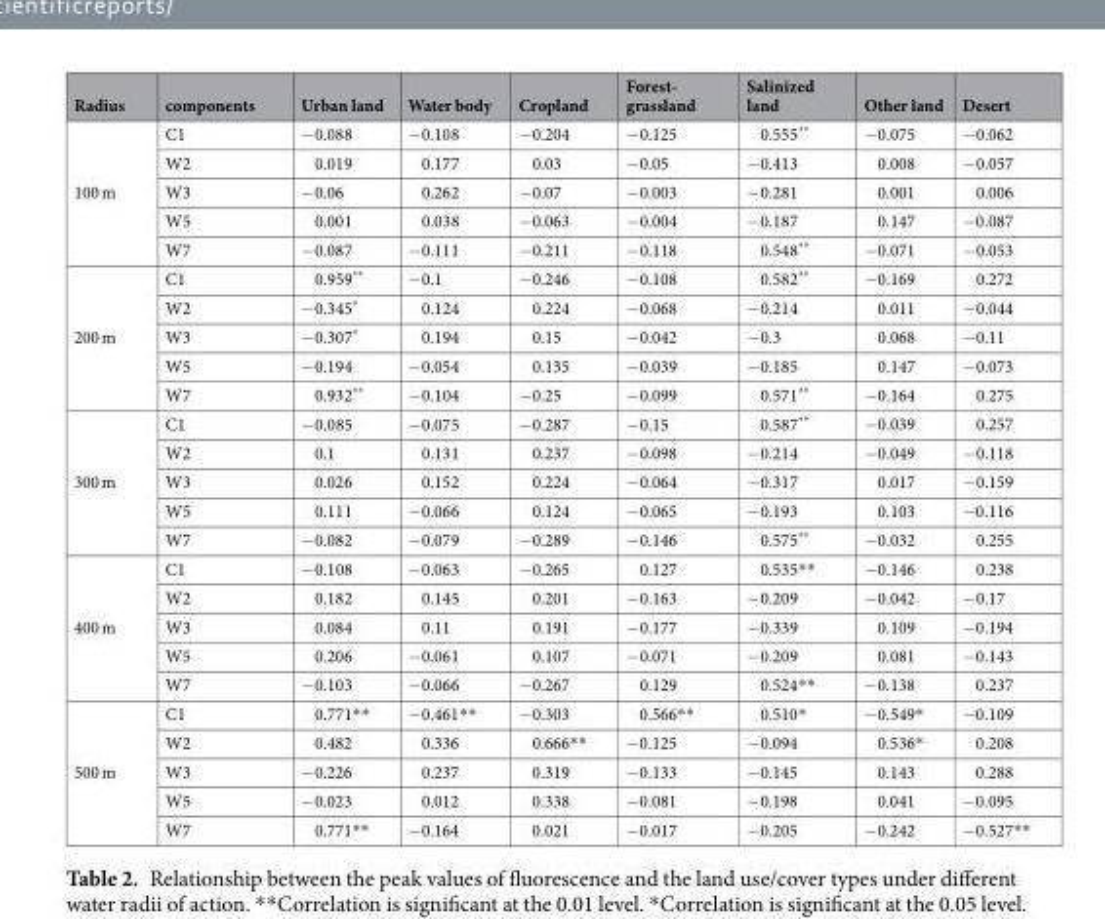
<table><thead><tr><td>Radius</td><td>components</td><td>Urban land</td><td>Water body</td><td>Cropland</td><td>Forest- grassland</td><td>Salinized land</td><td>Other land</td><td>Desert</td></tr></thead><tbody><tr><td rowspan="5">100 m</td><td>C1</td><td>−0.088</td><td>−0.108</td><td>−0.204</td><td>−0.125</td><td>0.555**</td><td>−0.075</td><td>−0.062</td></tr><tr><td>W2</td><td>0.019</td><td>0.177</td><td>0.03</td><td>−0.05</td><td>−0.413</td><td>0.008</td><td>−0.057</td></tr><tr><td>W3</td><td>−0.06</td><td>0.262</td><td>−0.07</td><td>−0.003</td><td>−0.281</td><td>0.001</td><td>0.006</td></tr><tr><td>W5</td><td>0.001</td><td>0.038</td><td>−0.063</td><td>−0.004</td><td>−0.187</td><td>0.147</td><td>−0.087</td></tr><tr><td>W7</td><td>−0.087</td><td>−0.111</td><td>−0.211</td><td>−0.118</td><td>0.548**</td><td>−0.071</td><td>−0.053</td></tr><tr><td rowspan="5">200 m</td><td>C1</td><td>0.959**</td><td>−0.1</td><td>−0.246</td><td>−0.108</td><td>0.582**</td><td>−0.169</td><td>0.272</td></tr><tr><td>W2</td><td>−0.345*</td><td>0.124</td><td>0.224</td><td>−0.068</td><td>−0.214</td><td>0.011</td><td>−0.044</td></tr><tr><td>W3</td><td>−0.307*</td><td>0.194</td><td>0.15</td><td>−0.042</td><td>−0.3</td><td>0.068</td><td>−0.11</td></tr><tr><td>W5</td><td>−0.194</td><td>−0.054</td><td>0.135</td><td>−0.039</td><td>−0.185</td><td>0.147</td><td>−0.073</td></tr><tr><td>W7</td><td>0.932**</td><td>−0.104</td><td>−0.25</td><td>−0.099</td><td>0.571**</td><td>−0.164</td><td>0.275</td></tr><tr><td rowspan="5">300 m</td><td>C1</td><td>−0.085</td><td>−0.075</td><td>−0.287</td><td>−0.15</td><td>0.587**</td><td>−0.039</td><td>0.257</td></tr><tr><td>W2</td><td>0.1</td><td>0.131</td><td>0.237</td><td>−0.098</td><td>−0.214</td><td>−0.049</td><td>−0.118</td></tr><tr><td>W3</td><td>0.026</td><td>0.152</td><td>0.224</td><td>−0.064</td><td>−0.317</td><td>0.017</td><td>−0.159</td></tr><tr><td>W5</td><td>0.111</td><td>−0.066</td><td>0.124</td><td>−0.065</td><td>−0.193</td><td>0.103</td><td>−0.116</td></tr><tr><td>W7</td><td>−0.082</td><td>−0.079</td><td>−0.289</td><td>−0.146</td><td>0.575**</td><td>−0.032</td><td>0.255</td></tr><tr><td rowspan="5">400 m</td><td>C1</td><td>−0.108</td><td>−0.063</td><td>−0.265</td><td>0.127</td><td>0.535**</td><td>−0.146</td><td>0.238</td></tr><tr><td>W2</td><td>0.182</td><td>0.145</td><td>0.201</td><td>−0.163</td><td>−0.209</td><td>−0.042</td><td>−0.17</td></tr><tr><td>W3</td><td>0.084</td><td>0.11</td><td>0.191</td><td>−0.177</td><td>−0.339</td><td>0.109</td><td>−0.194</td></tr><tr><td>W5</td><td>0.206</td><td>−0.061</td><td>0.107</td><td>−0.071</td><td>−0.209</td><td>0.081</td><td>−0.143</td></tr><tr><td>W7</td><td>−0.103</td><td>−0.066</td><td>−0.267</td><td>0.129</td><td>0.524**</td><td>−0.138</td><td>0.237</td></tr><tr><td rowspan="5">500 m</td><td>C1</td><td>0.771**</td><td>−0.461**</td><td>−0.303</td><td>0.566**</td><td>0.510*</td><td>−0.549*</td><td>−0.109</td></tr><tr><td>W2</td><td>0.482</td><td>0.336</td><td>0.666**</td><td>−0.125</td><td>−0.094</td><td>0.536*</td><td>0.208</td></tr><tr><td>W3</td><td>−0.226</td><td>0.237</td><td>0.319</td><td>−0.133</td><td>−0.145</td><td>0.143</td><td>0.288</td></tr><tr><td>W5</td><td>−0.023</td><td>0.012</td><td>0.338</td><td>−0.081</td><td>−0.198</td><td>0.041</td><td>−0.095</td></tr><tr><td>W7</td><td>0.771**</td><td>−0.164</td><td>0.021</td><td>−0.017</td><td>−0.205</td><td>−0.242</td><td>−0.527**</td></tr></tbody></table>